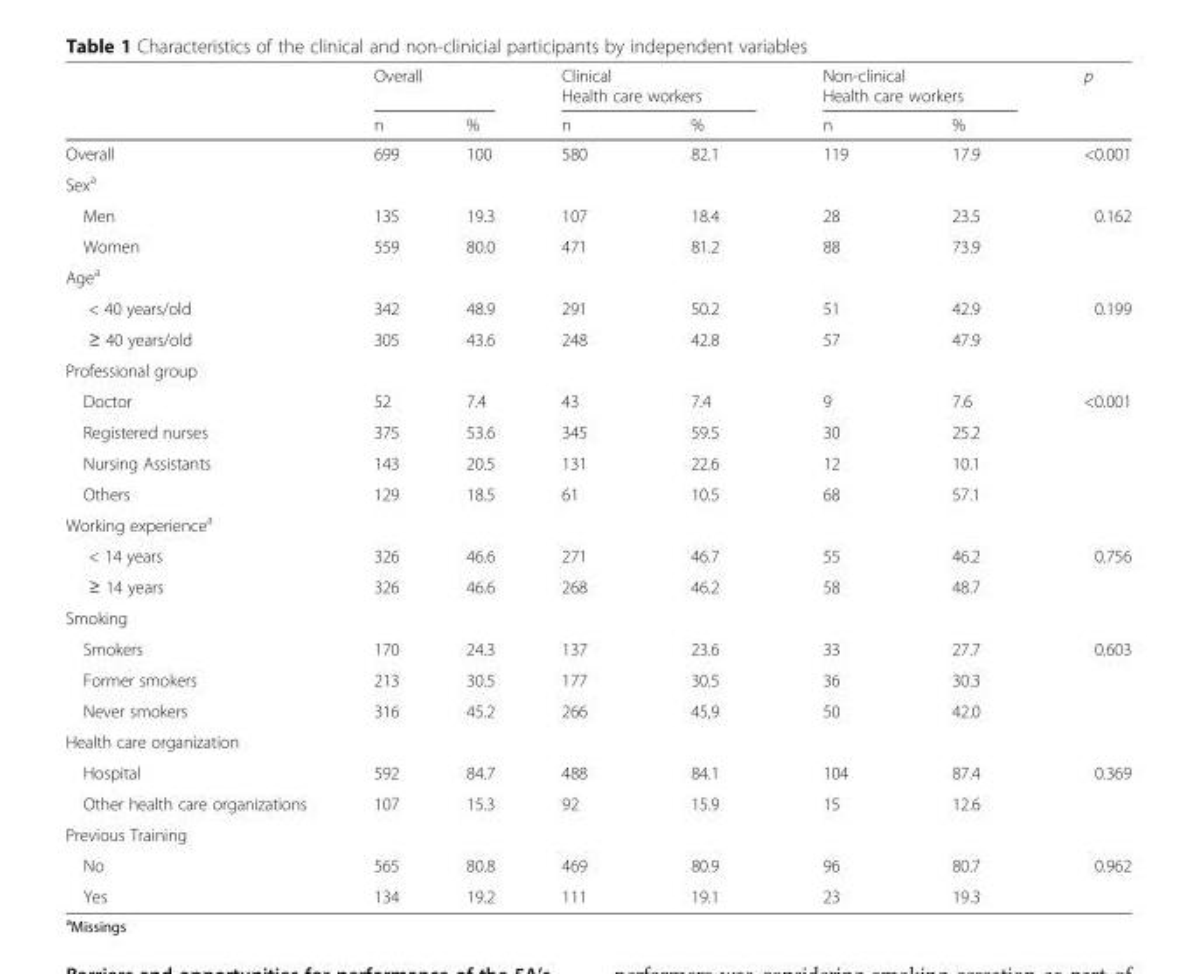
<table><thead><tr><td rowspan="2"></td><td colspan="2">Overall</td><td colspan="2">Clinical Health care workers</td><td colspan="2">Non-clinical Health care workers</td><td rowspan="2">p</td></tr><tr><td>n</td><td>%</td><td>n</td><td>%</td><td>n</td><td>%</td></tr></thead><tbody><tr><td>Overall</td><td>699</td><td>100</td><td>580</td><td>82.1</td><td>119</td><td>17.9</td><td>&lt;0.001</td></tr><tr><td colspan="8">Sex<sup>a</sup></td></tr><tr><td>Men</td><td>135</td><td>19.3</td><td>107</td><td>18.4</td><td>28</td><td>23.5</td><td rowspan="2">0.162</td></tr><tr><td>Women</td><td>559</td><td>80.0</td><td>471</td><td>81.2</td><td>88</td><td>73.9</td></tr><tr><td colspan="8">Age<sup>a</sup></td></tr><tr><td>&lt; 40 years/old</td><td>342</td><td>48.9</td><td>291</td><td>50.2</td><td>51</td><td>42.9</td><td rowspan="2">0.199</td></tr><tr><td>≥ 40 years/old</td><td>305</td><td>43.6</td><td>248</td><td>42.8</td><td>57</td><td>47.9</td></tr><tr><td colspan="8">Professional group</td></tr><tr><td>Doctor</td><td>52</td><td>7.4</td><td>43</td><td>7.4</td><td>9</td><td>7.6</td><td rowspan="4">&lt;0.001</td></tr><tr><td>Registered nurses</td><td>375</td><td>53.6</td><td>345</td><td>59.5</td><td>30</td><td>25.2</td></tr><tr><td>Nursing Assistants</td><td>143</td><td>20.5</td><td>131</td><td>22.6</td><td>12</td><td>10.1</td></tr><tr><td>Others</td><td>129</td><td>18.5</td><td>61</td><td>10.5</td><td>68</td><td>57.1</td></tr><tr><td colspan="8">Working experience<sup>a</sup></td></tr><tr><td>&lt; 14 years</td><td>326</td><td>46.6</td><td>271</td><td>46.7</td><td>55</td><td>46.2</td><td rowspan="2">0.756</td></tr><tr><td>≥ 14 years</td><td>326</td><td>46.6</td><td>268</td><td>46.2</td><td>58</td><td>48.7</td></tr><tr><td colspan="8">Smoking</td></tr><tr><td>Smokers</td><td>170</td><td>24.3</td><td>137</td><td>23.6</td><td>33</td><td>27.7</td><td rowspan="3">0.603</td></tr><tr><td>Former smokers</td><td>213</td><td>30.5</td><td>177</td><td>30.5</td><td>36</td><td>30.3</td></tr><tr><td>Never smokers</td><td>316</td><td>45.2</td><td>266</td><td>45,9</td><td>50</td><td>42.0</td></tr><tr><td colspan="8">Health care organization</td></tr><tr><td>Hospital</td><td>592</td><td>84.7</td><td>488</td><td>84.1</td><td>104</td><td>87.4</td><td rowspan="2">0.369</td></tr><tr><td>Other health care organizations</td><td>107</td><td>15.3</td><td>92</td><td>15.9</td><td>15</td><td>12.6</td></tr><tr><td colspan="8">Previous Training</td></tr><tr><td>No</td><td>565</td><td>80.8</td><td>469</td><td>80.9</td><td>96</td><td>80.7</td><td rowspan="2">0.962</td></tr><tr><td>Yes</td><td>134</td><td>19.2</td><td>111</td><td>19.1</td><td>23</td><td>19.3</td></tr></tbody></table>